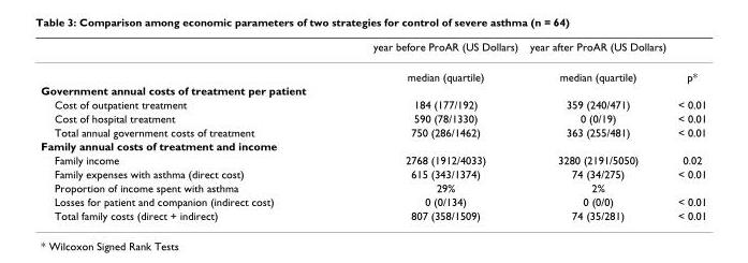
<table><thead><tr><td></td><td>year before ProAR (US Dollars)</td><td>year after ProAR (US Dollars)</td><td></td></tr></thead><tbody><tr><td></td><td>median (quartile)</td><td>median (quartile)</td><td>p*</td></tr><tr><td colspan="4">Government annual costs of treatment per patient</td></tr><tr><td>Cost of outpatient treatment</td><td>184 (177/192)</td><td>359 (240/471)</td><td>&lt; 0.01</td></tr><tr><td>Cost of hospital treatment</td><td>590 (78/1330)</td><td>0 (0/19)</td><td>&lt; 0.01</td></tr><tr><td>Total annual government costs of treatment</td><td>750 (286/1462)</td><td>363 (255/481)</td><td>&lt; 0.01</td></tr><tr><td colspan="4">Family annual costs of treatment and income</td></tr><tr><td>Family income</td><td>2768 (1912/4033)</td><td>3280 (2191/5050)</td><td>0.02</td></tr><tr><td>Family expenses with asthma (direct cost)</td><td>615 (343/1374)</td><td>74 (34/275)</td><td>&lt; 0.01</td></tr><tr><td>Proportion of income spent with asthma</td><td>29%</td><td>2%</td><td></td></tr><tr><td>Losses for patient and companion (indirect cost)</td><td>0 (0/134)</td><td>0 (0/0)</td><td>&lt; 0.01</td></tr><tr><td>Total family costs (direct + indirect)</td><td>807 (358/1509)</td><td>74 (35/281)</td><td>&lt; 0.01</td></tr></tbody></table>